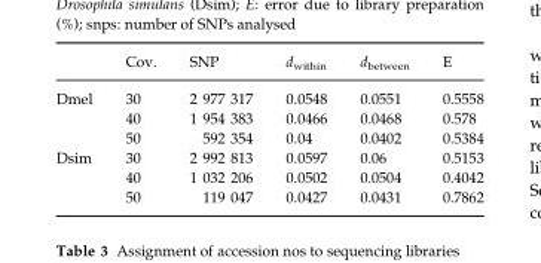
<table><thead><tr><td></td><td>Cov.</td><td>SNP</td><td>d<sub>within</sub></td><td>d<sub>between</sub></td><td>E</td></tr></thead><tbody><tr><td rowspan="3">Dmel</td><td>30</td><td>2 977 317</td><td>0.0548</td><td>0.0551</td><td>0.5558</td></tr><tr><td>40</td><td>1 954 383</td><td>0.0466</td><td>0.0468</td><td>0.578</td></tr><tr><td>50</td><td>592 354</td><td>0.04</td><td>0.0402</td><td>0.5384</td></tr><tr><td rowspan="3">Dsim</td><td>30</td><td>2 992 813</td><td>0.0597</td><td>0.06</td><td>0.5153</td></tr><tr><td>40</td><td>1 032 206</td><td>0.0502</td><td>0.0504</td><td>0.4042</td></tr><tr><td>50</td><td>119 047</td><td>0.0427</td><td>0.0431</td><td>0.7862</td></tr></tbody></table>